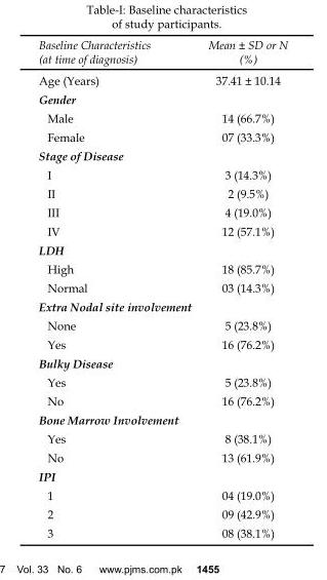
<table><thead><tr><td>Baseline Characteristics (at time of diagnosis)</td><td>Mean ± SD or N (%)</td></tr></thead><tbody><tr><td>Age (Years)</td><td>37.41 ± 10.14</td></tr><tr><td colspan="2">Gender</td></tr><tr><td>Male</td><td>14 (66.7%)</td></tr><tr><td>Female</td><td>07 (33.3%)</td></tr><tr><td colspan="2">Stage of Disease</td></tr><tr><td>I</td><td>3 (14.3%)</td></tr><tr><td>II</td><td>2 (9.5%)</td></tr><tr><td>III</td><td>4 (19.0%)</td></tr><tr><td>IV</td><td>12 (57.1%)</td></tr><tr><td colspan="2">LDH</td></tr><tr><td>High</td><td>18 (85.7%)</td></tr><tr><td>Normal</td><td>03 (14.3%)</td></tr><tr><td colspan="2">Extra Nodal site involvement</td></tr><tr><td>None</td><td>5 (23.8%)</td></tr><tr><td>Yes</td><td>16 (76.2%)</td></tr><tr><td colspan="2">Bulky Disease</td></tr><tr><td>Yes</td><td>5 (23.8%)</td></tr><tr><td>No</td><td>16 (76.2%)</td></tr><tr><td colspan="2">Bone Marrow Involvement</td></tr><tr><td>Yes</td><td>8 (38.1%)</td></tr><tr><td>No</td><td>13 (61.9%)</td></tr><tr><td colspan="2">IPI</td></tr><tr><td>1</td><td>04 (19.0%)</td></tr><tr><td>2</td><td>09 (42.9%)</td></tr><tr><td>3</td><td>08 (38.1%)</td></tr></tbody></table>